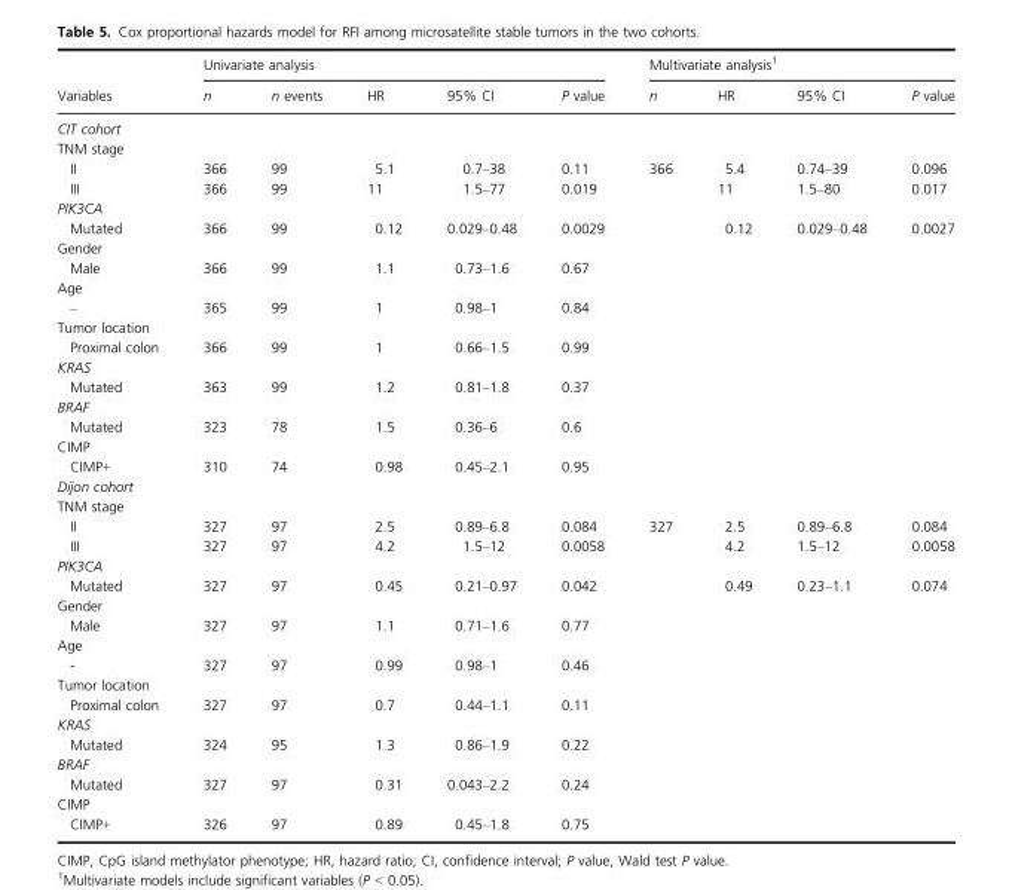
<table><thead><tr><td rowspan="2">Variables</td><td colspan="5">Univariate analysis</td><td colspan="4">Multivariate analysis<sup>1</sup></td></tr><tr><td>n</td><td>n events</td><td>HR</td><td>95% CI</td><td>P value</td><td>n</td><td>HR</td><td>95% CI</td><td>P value</td></tr></thead><tbody><tr><td colspan="10">CIT cohort</td></tr><tr><td colspan="10">TNM stage</td></tr><tr><td>II</td><td>366</td><td>99</td><td>5.1</td><td>0.7–38</td><td>0.11</td><td rowspan="2">366</td><td>5.4</td><td>0.74–39</td><td>0.096</td></tr><tr><td>III</td><td>366</td><td>99</td><td>11</td><td>1.5–77</td><td>0.019</td><td>11</td><td>1.5–80</td><td>0.017</td></tr><tr><td colspan="10">PIK3CA</td></tr><tr><td>Mutated</td><td>366</td><td>99</td><td>0.12</td><td>0.029–0.48</td><td>0.0029</td><td></td><td>0.12</td><td>0.029–0.48</td><td>0.0027</td></tr><tr><td colspan="10">Gender</td></tr><tr><td>Male</td><td>366</td><td>99</td><td>1.1</td><td>0.73–1.6</td><td>0.67</td><td></td><td></td><td></td><td></td></tr><tr><td colspan="10">Age</td></tr><tr><td>–</td><td>365</td><td>99</td><td>1</td><td>0.98–1</td><td>0.84</td><td></td><td></td><td></td><td></td></tr><tr><td colspan="10">Tumor location</td></tr><tr><td>Proximal colon</td><td>366</td><td>99</td><td>1</td><td>0.66–1.5</td><td>0.99</td><td></td><td></td><td></td><td></td></tr><tr><td colspan="10">KRAS</td></tr><tr><td>Mutated</td><td>363</td><td>99</td><td>1.2</td><td>0.81–1.8</td><td>0.37</td><td></td><td></td><td></td><td></td></tr><tr><td colspan="10">BRAF</td></tr><tr><td>Mutated</td><td>323</td><td>78</td><td>1.5</td><td>0.36–6</td><td>0.6</td><td></td><td></td><td></td><td></td></tr><tr><td colspan="10">CIMP</td></tr><tr><td>CIMP+</td><td>310</td><td>74</td><td>0.98</td><td>0.45–2.1</td><td>0.95</td><td></td><td></td><td></td><td></td></tr><tr><td colspan="10">Dijon cohort</td></tr><tr><td colspan="10">TNM stage</td></tr><tr><td>II</td><td>327</td><td>97</td><td>2.5</td><td>0.89–6.8</td><td>0.084</td><td>327</td><td>2.5</td><td>0.89–6.8</td><td>0.084</td></tr><tr><td>III</td><td>327</td><td>97</td><td>4.2</td><td>1.5–12</td><td>0.0058</td><td></td><td>4.2</td><td>1.5–12</td><td>0.0058</td></tr><tr><td colspan="10">PIK3CA</td></tr><tr><td>Mutated</td><td>327</td><td>97</td><td>0.45</td><td>0.21–0.97</td><td>0.042</td><td></td><td>0.49</td><td>0.23–1.1</td><td>0.074</td></tr><tr><td colspan="10">Gender</td></tr><tr><td>Male</td><td>327</td><td>97</td><td>1.1</td><td>0.71–1.6</td><td>0.77</td><td></td><td></td><td></td><td></td></tr><tr><td colspan="10">Age</td></tr><tr><td>-</td><td>327</td><td>97</td><td>0.99</td><td>0.98–1</td><td>0.46</td><td></td><td></td><td></td><td></td></tr><tr><td colspan="10">Tumor location</td></tr><tr><td>Proximal colon</td><td>327</td><td>97</td><td>0.7</td><td>0.44–1.1</td><td>0.11</td><td></td><td></td><td></td><td></td></tr><tr><td colspan="10">KRAS</td></tr><tr><td>Mutated</td><td>324</td><td>95</td><td>1.3</td><td>0.86–1.9</td><td>0.22</td><td></td><td></td><td></td><td></td></tr><tr><td colspan="10">BRAF</td></tr><tr><td>Mutated</td><td>327</td><td>97</td><td>0.31</td><td>0.043–2.2</td><td>0.24</td><td></td><td></td><td></td><td></td></tr><tr><td colspan="10">CIMP</td></tr><tr><td>CIMP+</td><td>326</td><td>97</td><td>0.89</td><td>0.45–1.8</td><td>0.75</td><td></td><td></td><td></td><td></td></tr></tbody></table>